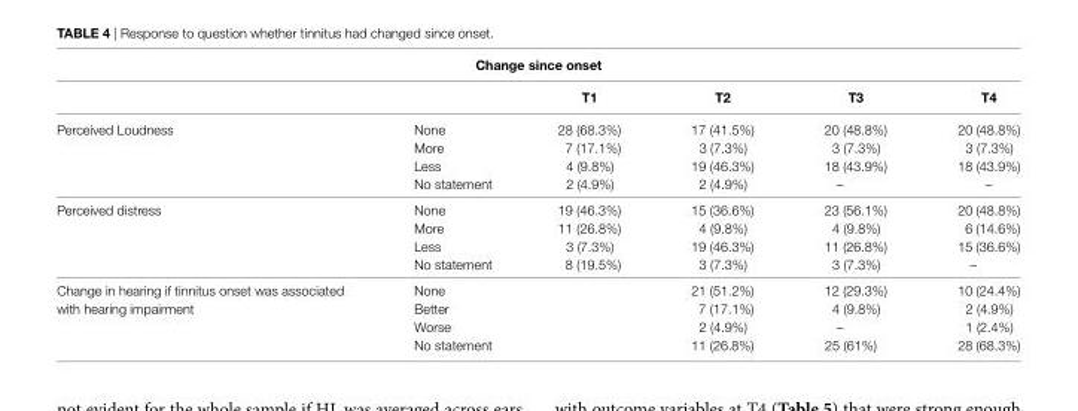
<table><thead><tr><td colspan="6">change since onset</td></tr><tr><td></td><td></td><td>T1</td><td>T2</td><td>T3</td><td>T4</td></tr></thead><tbody><tr><td rowspan="4">Perceived Loudness</td><td>None</td><td>28 (68.3%)</td><td>17 (41.5%)</td><td>20 (48.8%)</td><td>20 (48.8%)</td></tr><tr><td>More</td><td>7 (17.1%)</td><td>3 (7.3%)</td><td>3 (7.3%)</td><td>3 (7.3%)</td></tr><tr><td>Less</td><td>4 (9.8%)</td><td>19 (46.3%)</td><td>18 (43.9%)</td><td>18 (43.9%)</td></tr><tr><td>No statement</td><td>2 (4.9%)</td><td>2 (4.9%)</td><td>–</td><td>–</td></tr><tr><td rowspan="4">Perceived distress</td><td>None</td><td>19 (46.3%)</td><td>15 (36.6%)</td><td>23 (56.1%)</td><td>20 (48.8%)</td></tr><tr><td>More</td><td>11 (26.8%)</td><td>4 (9.8%)</td><td>4 (9.8%)</td><td>6 (14.6%)</td></tr><tr><td>Less</td><td>3 (7.3%)</td><td>19 (46.3%)</td><td>11 (26.8%)</td><td>15 (36.6%)</td></tr><tr><td>No statement</td><td>8 (19.5%)</td><td>3 (7.3%)</td><td>3 (7.3%)</td><td>–</td></tr><tr><td rowspan="4">Change in hearing if tinnitus onset was associated with hearing impairment</td><td>None</td><td></td><td>21 (51.2%)</td><td>12 (29.3%)</td><td>10 (24.4%)</td></tr><tr><td>Better</td><td></td><td>7 (17.1%)</td><td>4 (9.8%)</td><td>2 (4.9%)</td></tr><tr><td>Worse</td><td></td><td>2 (4.9%)</td><td>–</td><td>1 (2.4%)</td></tr><tr><td>No statement</td><td></td><td>11 (26.8%)</td><td>25 (61%)</td><td>28 (68.3%)</td></tr></tbody></table>